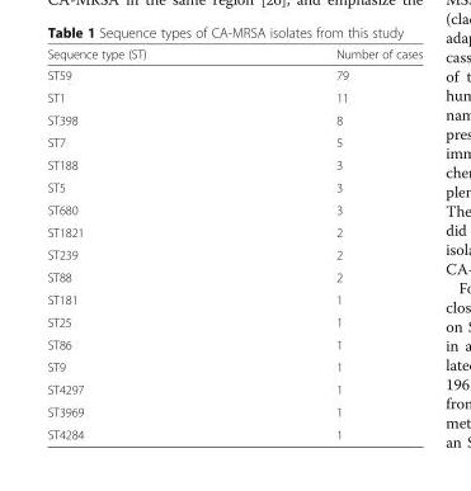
<table><thead><tr><td>Sequence type (ST)</td><td>Number of cases</td></tr></thead><tbody><tr><td>ST59</td><td>79</td></tr><tr><td>ST1</td><td>11</td></tr><tr><td>ST398</td><td>8</td></tr><tr><td>ST7</td><td>5</td></tr><tr><td>ST188</td><td>3</td></tr><tr><td>ST5</td><td>3</td></tr><tr><td>ST680</td><td>3</td></tr><tr><td>ST1821</td><td>2</td></tr><tr><td>ST239</td><td>2</td></tr><tr><td>ST88</td><td>2</td></tr><tr><td>ST181</td><td>1</td></tr><tr><td>ST25</td><td>1</td></tr><tr><td>ST86</td><td>1</td></tr><tr><td>ST9</td><td>1</td></tr><tr><td>ST4297</td><td>1</td></tr><tr><td>ST3969</td><td>1</td></tr><tr><td>ST4284</td><td>1</td></tr></tbody></table>